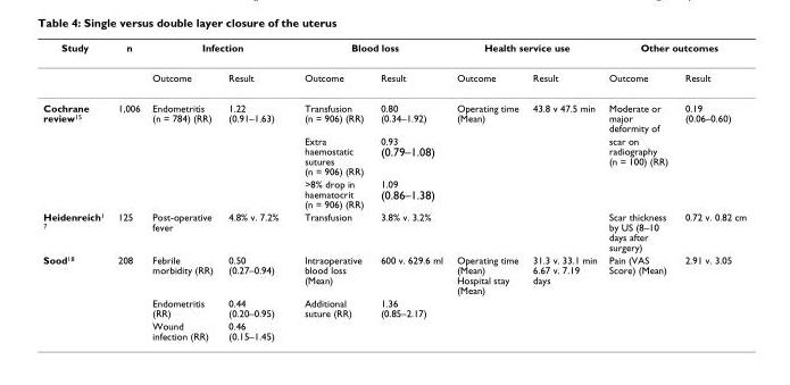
<table><thead><tr><td rowspan="2">Study</td><td rowspan="2">n</td><td colspan="2">Infection</td><td colspan="2">Blood loss</td><td colspan="2">Health service use</td><td colspan="2">Other outcomes</td></tr><tr><td>Outcome</td><td>Result</td><td>Outcome</td><td>Result</td><td>Outcome</td><td>Result</td><td>Outcome</td><td>Result</td></tr></thead><tbody><tr><td rowspan="3">Cochrane review<sup>15</sup></td><td>1,006</td><td>Endometritis (n = 784) (RR)</td><td>1.22 (0.91–1.63)</td><td>Transfusion (n = 906) (RR)</td><td>0.80 (0.34–1.92)</td><td>Operating time (Mean)</td><td>43.8 v 47.5 min</td><td>Moderate or major deformity of</td><td>0.19 (0.06–0.60)</td></tr><tr><td></td><td></td><td></td><td>Extra haemostatic sutures (n = 906) (RR)</td><td>0.93 (0.79–1.08)</td><td></td><td></td><td>scar on radiography (n = 100) (RR)</td><td></td></tr><tr><td></td><td></td><td></td><td>&gt;8% drop in haematocrit (n = 906) (RR)</td><td>1.09 (0.86–1.38)</td><td></td><td></td><td></td><td></td></tr><tr><td>Heidenreich<sup>1 7</sup></td><td>125</td><td>Post-operative fever</td><td>4.8% v. 7.2%</td><td>Transfusion</td><td>3.8% v. 3.2%</td><td></td><td></td><td>Scar thickness by US (8–10 days after surgery)</td><td>0.72 v. 0.82 cm</td></tr><tr><td rowspan="3">Sood<sup>18</sup></td><td>208</td><td>Febrile morbidity (RR)</td><td>0.50 (0.27–0.94)</td><td>Intraoperative blood loss (Mean)</td><td>600 v. 629.6 ml</td><td>Operating time (Mean) Hospital stay (Mean)</td><td>31.3 v. 33.1 min 6.67 v. 7.19 days</td><td>Pain (VAS Score) (Mean)</td><td>2.91 v. 3.05</td></tr><tr><td></td><td>Endometritis (RR)</td><td>0.44 (0.20–0.95)</td><td>Additional suture (RR)</td><td>1.36 (0.85–2.17)</td><td></td><td></td><td></td><td></td></tr><tr><td></td><td>Wound infection (RR)</td><td>0.46 (0.15–1.45)</td><td></td><td></td><td></td><td></td><td></td><td></td></tr></tbody></table>